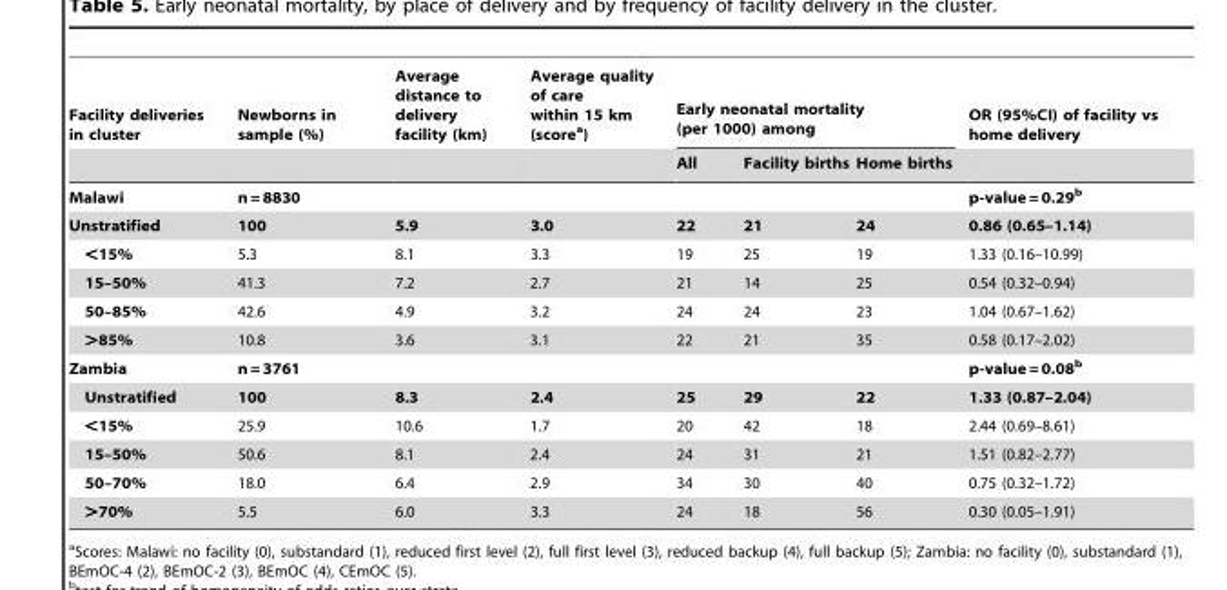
<table><thead><tr><td rowspan="2">Facility deliveries in cluster</td><td rowspan="2">Newborns in sample (%)</td><td rowspan="2">Average distance to delivery facility (km)</td><td rowspan="2">Average quality of care within 15 km (score<sup>a</sup>)</td><td colspan="3">Early neonatal mortality (per 1000) among</td><td rowspan="2">OR (95%CI) of facility vs home delivery</td></tr><tr><td>All</td><td>Facility births</td><td>Home births</td></tr></thead><tbody><tr><td>Malawi</td><td>n = 8830</td><td></td><td></td><td></td><td></td><td></td><td>p-value = 0.29b</td></tr><tr><td>Unstratified</td><td>100</td><td>5.9</td><td>3.0</td><td>22</td><td>21</td><td>24</td><td>0.86 (0.65–1.14)</td></tr><tr><td>&lt;15%</td><td>5.3</td><td>8.1</td><td>3.3</td><td>19</td><td>25</td><td>19</td><td>1.33 (0.16–10.99)</td></tr><tr><td>15–50%</td><td>41.3</td><td>7.2</td><td>2.7</td><td>21</td><td>14</td><td>25</td><td>0.54 (0.32–0.94)</td></tr><tr><td>50–85%</td><td>42.6</td><td>4.9</td><td>3.2</td><td>24</td><td>24</td><td>23</td><td>1.04 (0.67–1.62)</td></tr><tr><td>&gt;85%</td><td>10.8</td><td>3.6</td><td>3.1</td><td>22</td><td>21</td><td>35</td><td>0.58 (0.17–2.02)</td></tr><tr><td>Zambia</td><td>n = 3761</td><td></td><td></td><td></td><td></td><td></td><td>p-value = 0.08b</td></tr><tr><td>Unstratified</td><td>100</td><td>8.3</td><td>2.4</td><td>25</td><td>29</td><td>22</td><td>1.33 (0.87–2.04)</td></tr><tr><td>&lt;15%</td><td>25.9</td><td>10.6</td><td>1.7</td><td>20</td><td>42</td><td>18</td><td>2.44 (0.69–8.61)</td></tr><tr><td>15–50%</td><td>50.6</td><td>8.1</td><td>2.4</td><td>24</td><td>31</td><td>21</td><td>1.51 (0.82–2.77)</td></tr><tr><td>50–70%</td><td>18.0</td><td>6.4</td><td>2.9</td><td>34</td><td>30</td><td>40</td><td>0.75 (0.32–1.72)</td></tr><tr><td>&gt;70%</td><td>5.5</td><td>6.0</td><td>3.3</td><td>24</td><td>18</td><td>56</td><td>0.30 (0.05–1.91)</td></tr></tbody></table>